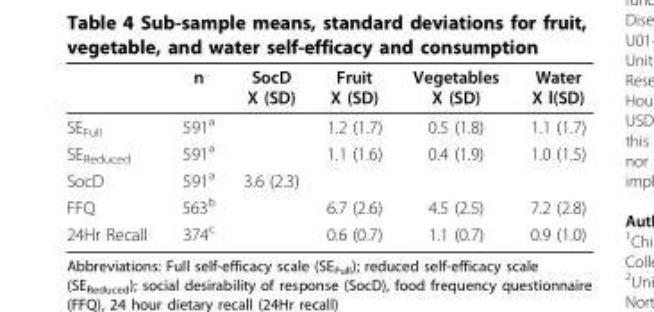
<table><thead><tr><td></td><td>n</td><td>SocD X (SD)</td><td>Fruit X (SD)</td><td>Vegetables X (SD)</td><td>Water X l(SD)</td></tr></thead><tbody><tr><td>SE<sub>Full</sub></td><td>591<sup>a</sup></td><td></td><td>1.2 (1.7)</td><td>0.5 (1.8)</td><td>1.1 (1.7)</td></tr><tr><td>SE<sub>Reduced</sub></td><td>591<sup>a</sup></td><td></td><td>1.1 (1.6)</td><td>0.4 (1.9)</td><td>1.0 (1.5)</td></tr><tr><td>SocD</td><td>591<sup>a</sup></td><td>3.6 (2.3)</td><td></td><td></td><td></td></tr><tr><td>FFQ</td><td>563<sup>b</sup></td><td></td><td>6.7 (2.6)</td><td>4.5 (2.5)</td><td>7.2 (2.8)</td></tr><tr><td>24Hr Recall</td><td>374<sup>c</sup></td><td></td><td>0.6 (0.7)</td><td>1.1 (0.7)</td><td>0.9 (1.0)</td></tr></tbody></table>